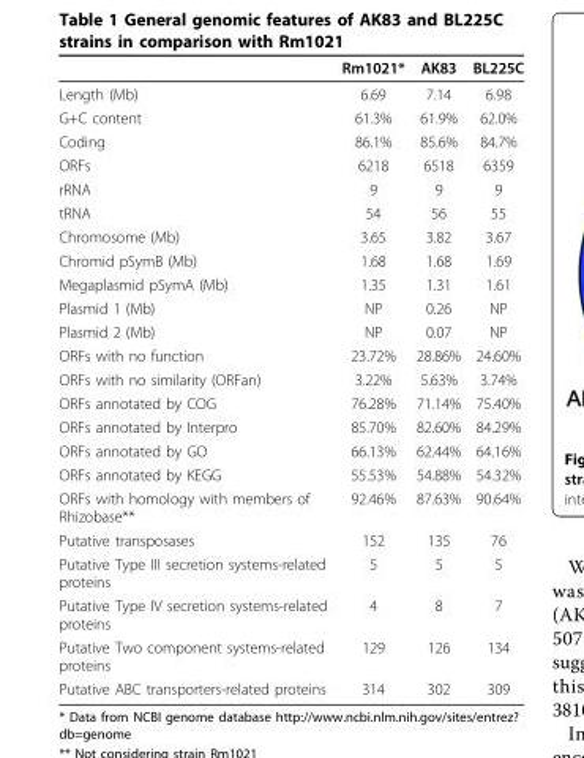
<table><thead><tr><td></td><td>Rm1021*</td><td>AK83</td><td>BL225C</td></tr></thead><tbody><tr><td>Length (Mb)</td><td>6.69</td><td>7.14</td><td>6.98</td></tr><tr><td>G+C content</td><td>61.3%</td><td>61.9%</td><td>62.0%</td></tr><tr><td>Coding</td><td>86.1%</td><td>85.6%</td><td>84.7%</td></tr><tr><td>ORFs</td><td>6218</td><td>6518</td><td>6359</td></tr><tr><td>rRNA</td><td>9</td><td>9</td><td>9</td></tr><tr><td>tRNA</td><td>54</td><td>56</td><td>55</td></tr><tr><td>Chromosome (Mb)</td><td>3.65</td><td>3.82</td><td>3.67</td></tr><tr><td>Chromid pSymB (Mb)</td><td>1.68</td><td>1.68</td><td>1.69</td></tr><tr><td>Megaplasmid pSymA (Mb)</td><td>1.35</td><td>1.31</td><td>1.61</td></tr><tr><td>Plasmid 1 (Mb)</td><td>NP</td><td>0.26</td><td>NP</td></tr><tr><td>Plasmid 2 (Mb)</td><td>NP</td><td>0.07</td><td>NP</td></tr><tr><td>ORFs with no function</td><td>23.72%</td><td>28.86%</td><td>24.60%</td></tr><tr><td>ORFs with no similarity (ORFan)</td><td>3.22%</td><td>5.63%</td><td>3.74%</td></tr><tr><td>ORFs annotated by COG</td><td>76.28%</td><td>71.14%</td><td>75.40%</td></tr><tr><td>ORFs annotated by Interpro</td><td>85.70%</td><td>82.60%</td><td>84.29%</td></tr><tr><td>ORFs annotated by GO</td><td>66.13%</td><td>62.44%</td><td>64.16%</td></tr><tr><td>ORFs annotated by KEGG</td><td>55.53%</td><td>54.88%</td><td>54.32%</td></tr><tr><td>ORFs with homology with members of Rhizobase**</td><td>92.46%</td><td>87.63%</td><td>90.64%</td></tr><tr><td>Putative transposases</td><td>152</td><td>135</td><td>76</td></tr><tr><td>Putative Type III secretion systems-related proteins</td><td>5</td><td>5</td><td>5</td></tr><tr><td>Putative Type IV secretion systems-related proteins</td><td>4</td><td>8</td><td>7</td></tr><tr><td>Putative Two component systems-related proteins</td><td>129</td><td>126</td><td>134</td></tr><tr><td>Putative ABC transporters-related proteins</td><td>314</td><td>302</td><td>309</td></tr></tbody></table>